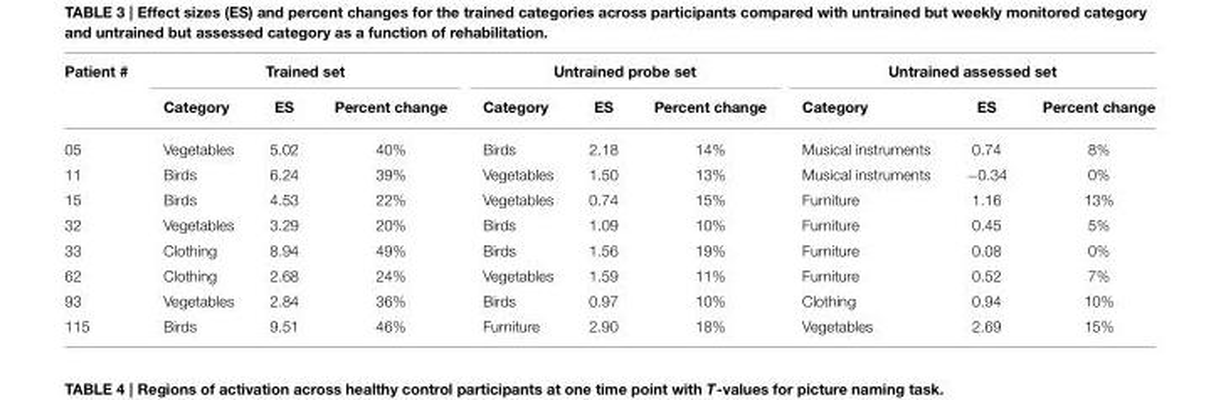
<table><thead><tr><td rowspan="2">Patient #</td><td colspan="3">Trained set</td><td colspan="3">Untrained probe set</td><td colspan="3">Untrained assessed set</td></tr><tr><td>Category</td><td>ES</td><td>Percent change</td><td>Category</td><td>ES</td><td>Percent change</td><td>Category</td><td>ES</td><td>Percent change</td></tr></thead><tbody><tr><td>05</td><td>Vegetables</td><td>5.02</td><td>40%</td><td>Birds</td><td>2.18</td><td>14%</td><td>Musical instruments</td><td>0.74</td><td>8%</td></tr><tr><td>11</td><td>Birds</td><td>6.24</td><td>39%</td><td>Vegetables</td><td>1.50</td><td>13%</td><td>Musical instruments</td><td>−0.34</td><td>0%</td></tr><tr><td>15</td><td>Birds</td><td>4.53</td><td>22%</td><td>Vegetables</td><td>0.74</td><td>15%</td><td>Furniture</td><td>1.16</td><td>13%</td></tr><tr><td>32</td><td>Vegetables</td><td>3.29</td><td>20%</td><td>Birds</td><td>1.09</td><td>10%</td><td>Furniture</td><td>0.45</td><td>5%</td></tr><tr><td>33</td><td>Clothing</td><td>8.94</td><td>49%</td><td>Birds</td><td>1.56</td><td>19%</td><td>Furniture</td><td>0.08</td><td>0%</td></tr><tr><td>62</td><td>Clothing</td><td>2.68</td><td>24%</td><td>Vegetables</td><td>1.59</td><td>11%</td><td>Furniture</td><td>0.52</td><td>7%</td></tr><tr><td>93</td><td>Vegetables</td><td>2.84</td><td>36%</td><td>Birds</td><td>0.97</td><td>10%</td><td>Clothing</td><td>0.94</td><td>10%</td></tr><tr><td>115</td><td>Birds</td><td>9.51</td><td>46%</td><td>Furniture</td><td>2.90</td><td>18%</td><td>Vegetables</td><td>2.69</td><td>15%</td></tr></tbody></table>